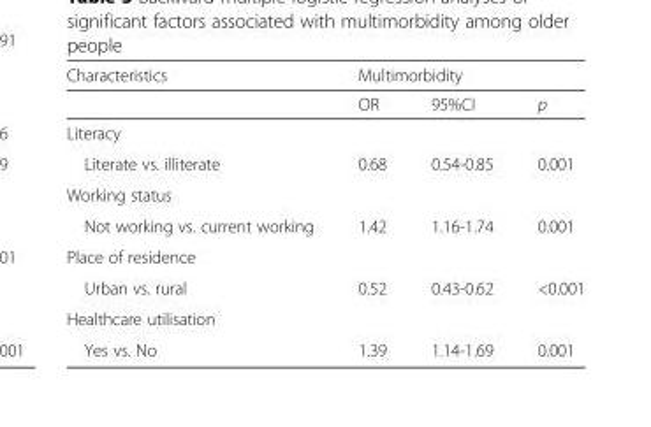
<table><thead><tr><td rowspan="2">Characteristics</td><td colspan="3">Multimorbidity</td></tr><tr><td>OR</td><td>95%CI</td><td>p</td></tr></thead><tbody><tr><td colspan="4">Literacy</td></tr><tr><td>Literate vs. illiterate</td><td>0.68</td><td>0.54-0.85</td><td>0.001</td></tr><tr><td colspan="4">Working status</td></tr><tr><td>Not working vs. current working</td><td>1.42</td><td>1.16-1.74</td><td>0.001</td></tr><tr><td colspan="4">Place of residence</td></tr><tr><td>Urban vs. rural</td><td>0.52</td><td>0.43-0.62</td><td>&lt;0.001</td></tr><tr><td colspan="4">Healthcare utilisation</td></tr><tr><td>Yes vs. No</td><td>1.39</td><td>1.14-1.69</td><td>0.001</td></tr></tbody></table>